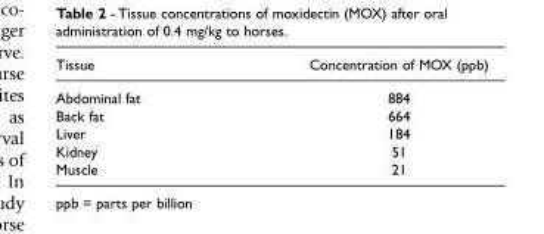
<table><thead><tr><td>Tissue</td><td>Concentration of MOX (ppb)</td></tr></thead><tbody><tr><td>Abdominal fat</td><td>884</td></tr><tr><td>Back fat</td><td>664</td></tr><tr><td>Liver</td><td>184</td></tr><tr><td>Kidney</td><td>51</td></tr><tr><td>Muscle</td><td>21</td></tr></tbody></table>